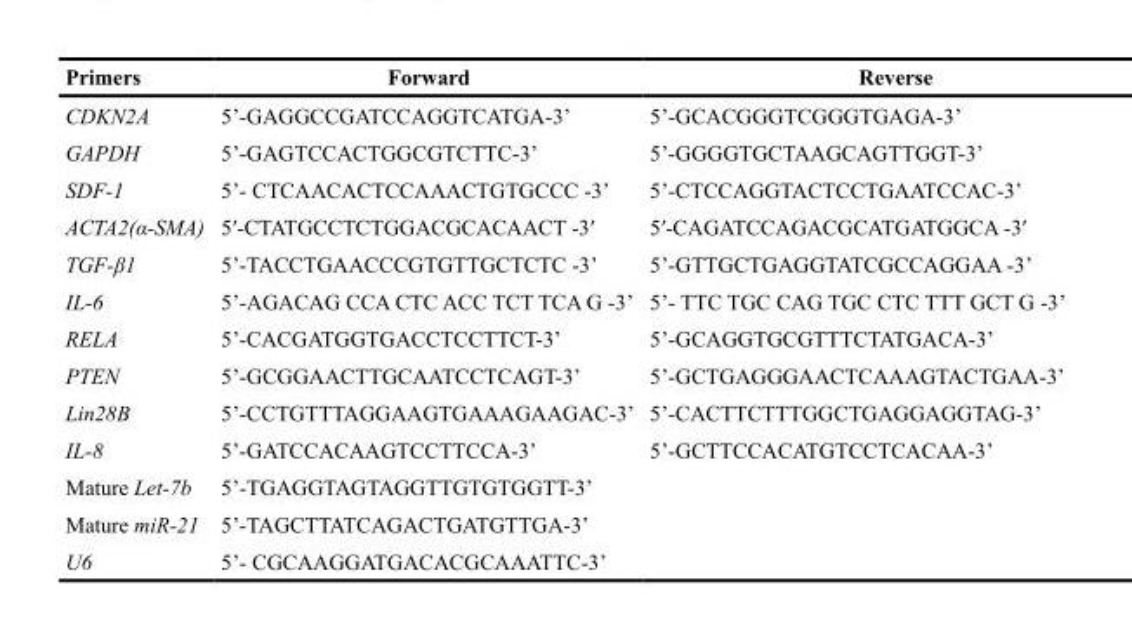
<table><thead><tr><td>Primers</td><td>Forward</td><td>Reverse</td></tr></thead><tbody><tr><td>CDKN2A</td><td>5’-GAGGCCGATCCAGGTCATGA-3’</td><td>5’-GCACGGGTCGGGTGAGA-3’</td></tr><tr><td>GAPDH</td><td>5’-GAGTCCACTGGCGTCTTC-3’</td><td>5’-GGGGTGCTAAGCAGTTGGT-3’</td></tr><tr><td>SDF-1</td><td>5’- CTCAACACTCCAAACTGTGCCC -3’</td><td>5’-CTCCAGGTACTCCTGAATCCAC-3’</td></tr><tr><td>ACTA2(α-SMA)</td><td>5′-CTATGCCTCTGGACGCACAACT -3′</td><td>5′-CAGATCCAGACGCATGATGGCA -3′</td></tr><tr><td>TGF-β1</td><td>5’-TACCTGAACCCGTGTTGCTCTC -3’</td><td>5’-GTTGCTGAGGTATCGCCAGGAA -3’</td></tr><tr><td>IL-6</td><td>5’-AGACAG CCA CTC ACC TCT TCA G -3’</td><td>5’- TTC TGC CAG TGC CTC TTT GCT G -3’</td></tr><tr><td>RELA</td><td>5’-CACGATGGTGACCTCCTTCT-3’</td><td>5’-GCAGGTGCGTTTCTATGACA-3’</td></tr><tr><td>PTEN</td><td>5’-GCGGAACTTGCAATCCTCAGT-3’</td><td>5’-GCTGAGGGAACTCAAAGTACTGAA-3’</td></tr><tr><td>Lin28B</td><td>5’-CCTGTTTAGGAAGTGAAAGAAGAC-3’</td><td>5’-CACTTCTTTGGCTGAGGAGGTAG-3’</td></tr><tr><td>IL-8</td><td>5’-GATCCACAAGTCCTTCCA-3’</td><td>5’-GCTTCCACATGTCCTCACAA-3’</td></tr><tr><td>Mature Let-7b</td><td>5’-TGAGGTAGTAGGTTGTGTGGTT-3’</td><td></td></tr><tr><td>Mature miR-21</td><td>5’-TAGCTTATCAGACTGATGTTGA-3’</td><td></td></tr><tr><td>U6</td><td>5’- CGCAAGGATGACACGCAAATTC-3’</td><td></td></tr></tbody></table>